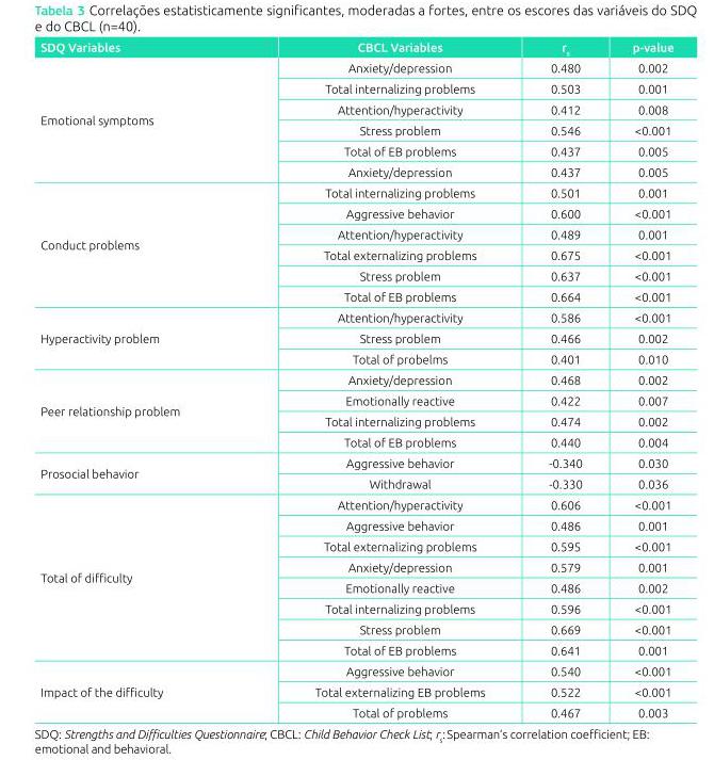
<table><thead><tr><td>SDQ Variables</td><td>CBCL Variables</td><td>r<sub>s</sub></td><td>p-value</td></tr></thead><tbody><tr><td rowspan="6">Emotional symptoms</td><td>Anxiety/depression</td><td>0.480</td><td>0.002</td></tr><tr><td>Total internalizing problems</td><td>0.503</td><td>0.001</td></tr><tr><td>Attention/hyperactivity</td><td>0.412</td><td>0.008</td></tr><tr><td>Stress problem</td><td>0.546</td><td>&lt;0.001</td></tr><tr><td>Total of EB problems</td><td>0.437</td><td>0.005</td></tr><tr><td>Anxiety/depression</td><td>0.437</td><td>0.005</td></tr><tr><td rowspan="6">Conduct problems</td><td>Total internalizing problems</td><td>0.501</td><td>0.001</td></tr><tr><td>Aggressive behavior</td><td>0.600</td><td>&lt;0.001</td></tr><tr><td>Attention/hyperactivity</td><td>0.489</td><td>0.001</td></tr><tr><td>Total externalizing problems</td><td>0.675</td><td>&lt;0.001</td></tr><tr><td>Stress problem</td><td>0.637</td><td>&lt;0.001</td></tr><tr><td>Total of EB problems</td><td>0.664</td><td>&lt;0.001</td></tr><tr><td rowspan="3">Hyperactivity problem</td><td>Attention/hyperactivity</td><td>0.586</td><td>&lt;0.001</td></tr><tr><td>Stress problem</td><td>0.466</td><td>0.002</td></tr><tr><td>Total of probelms</td><td>0.401</td><td>0.010</td></tr><tr><td rowspan="4">Peer relationship problem</td><td>Anxiety/depression</td><td>0.468</td><td>0.002</td></tr><tr><td>Emotionally reactive</td><td>0.422</td><td>0.007</td></tr><tr><td>Total internalizing problems</td><td>0.474</td><td>0.002</td></tr><tr><td>Total of EB problems</td><td>0.440</td><td>0.004</td></tr><tr><td rowspan="2">Prosocial behavior</td><td>Aggressive behavior</td><td>-0.340</td><td>0.030</td></tr><tr><td>Withdrawal</td><td>-0.330</td><td>0.036</td></tr><tr><td rowspan="8">Total of difficulty</td><td>Attention/hyperactivity</td><td>0.606</td><td>&lt;0.001</td></tr><tr><td>Aggressive behavior</td><td>0.486</td><td>0.001</td></tr><tr><td>Total externalizing problems</td><td>0.595</td><td>&lt;0.001</td></tr><tr><td>Anxiety/depression</td><td>0.579</td><td>0.001</td></tr><tr><td>Emotionally reactive</td><td>0.486</td><td>0.002</td></tr><tr><td>Total internalizing problems</td><td>0.596</td><td>&lt;0.001</td></tr><tr><td>Stress problem</td><td>0.669</td><td>&lt;0.001</td></tr><tr><td>Total of EB problems</td><td>0.641</td><td>0.001</td></tr><tr><td rowspan="3">Impact of the difficulty</td><td>Aggressive behavior</td><td>0.540</td><td>&lt;0.001</td></tr><tr><td>Total externalizing EB problems</td><td>0.522</td><td>&lt;0.001</td></tr><tr><td>Total of problems</td><td>0.467</td><td>0.003</td></tr></tbody></table>